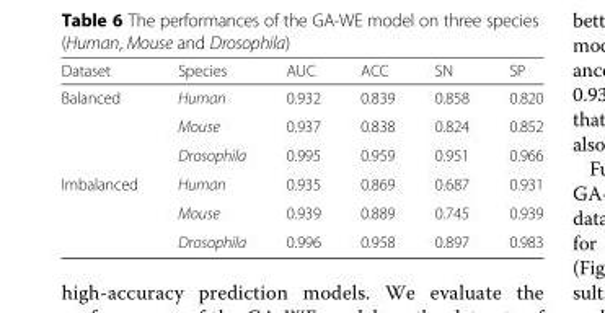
<table><thead><tr><td>Dataset</td><td>Species</td><td>AUC</td><td>ACC</td><td>SN</td><td>SP</td></tr></thead><tbody><tr><td rowspan="3">Balanced</td><td>Human</td><td>0.932</td><td>0.839</td><td>0.858</td><td>0.820</td></tr><tr><td>Mouse</td><td>0.937</td><td>0.838</td><td>0.824</td><td>0.852</td></tr><tr><td>Drosophila</td><td>0.995</td><td>0.959</td><td>0.951</td><td>0.966</td></tr><tr><td rowspan="3">Imbalanced</td><td>Human</td><td>0.935</td><td>0.869</td><td>0.687</td><td>0.931</td></tr><tr><td>Mouse</td><td>0.939</td><td>0.889</td><td>0.745</td><td>0.939</td></tr><tr><td>Drosophila</td><td>0.996</td><td>0.958</td><td>0.897</td><td>0.983</td></tr></tbody></table>